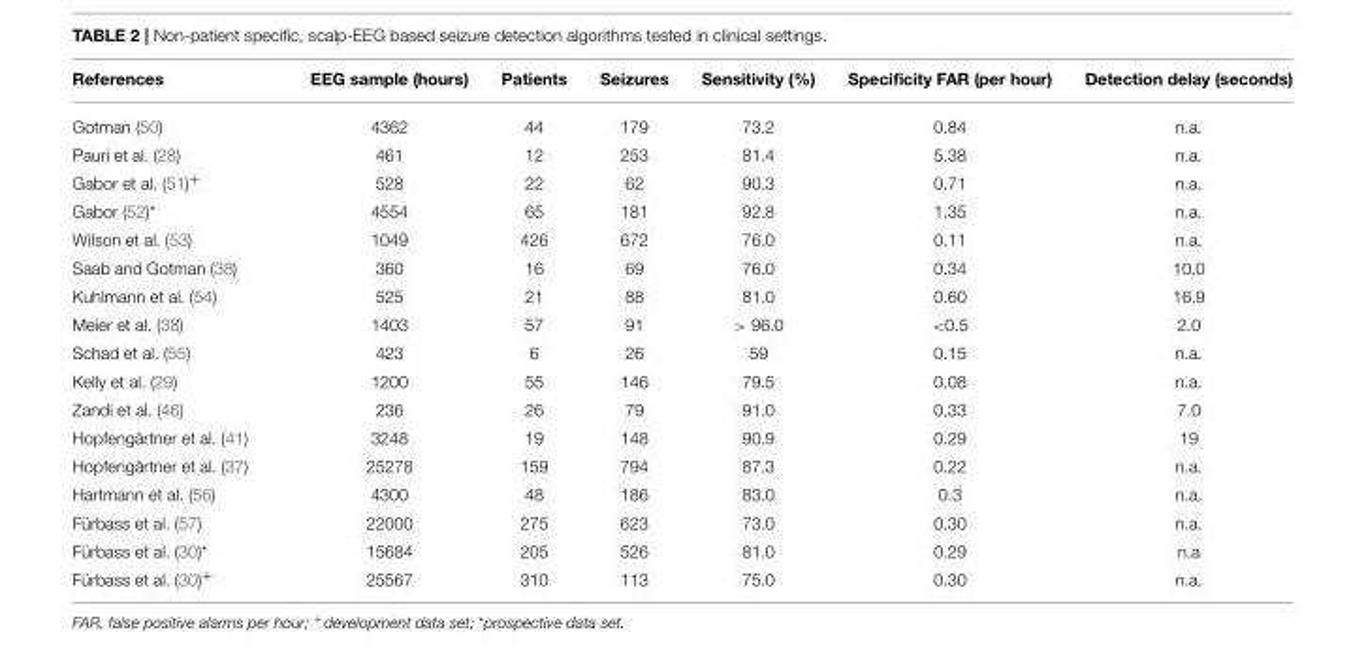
<table><thead><tr><td>References</td><td>EEG sample (hours)</td><td>Patients</td><td>Seizures</td><td>Sensitivity (%)</td><td>Specificity FAR (per hour)</td><td>Detection delay (seconds)</td></tr></thead><tbody><tr><td>Gotman (50)</td><td>4362</td><td>44</td><td>179</td><td>73.2</td><td>0.84</td><td>n.a.</td></tr><tr><td>Pauri et al. (28)</td><td>461</td><td>12</td><td>253</td><td>81.4</td><td>5.38</td><td>n.a.</td></tr><tr><td>Gabor et al. (51)<sup>+</sup></td><td>528</td><td>22</td><td>62</td><td>90.3</td><td>0.71</td><td>n.a.</td></tr><tr><td>Gabor (52)*</td><td>4554</td><td>65</td><td>181</td><td>92.8</td><td>1.35</td><td>n.a.</td></tr><tr><td>Wilson et al. (53)</td><td>1049</td><td>426</td><td>672</td><td>76.0</td><td>0.11</td><td>n.a.</td></tr><tr><td>Saab and Gotman (38)</td><td>360</td><td>16</td><td>69</td><td>76.0</td><td>0.34</td><td>10.0</td></tr><tr><td>Kuhlmann et al. (54)</td><td>525</td><td>21</td><td>88</td><td>81.0</td><td>0.60</td><td>16.9</td></tr><tr><td>Meier et al. (38)</td><td>1403</td><td>57</td><td>91</td><td>&gt; 96.0</td><td>&lt;0.5</td><td>2.0</td></tr><tr><td>Schad et al. (55)</td><td>423</td><td>6</td><td>26</td><td>59</td><td>0.15</td><td>n.a.</td></tr><tr><td>Kelly et al. (29)</td><td>1200</td><td>55</td><td>146</td><td>79.5</td><td>0.08</td><td>n.a.</td></tr><tr><td>Zandi et al. (46)</td><td>236</td><td>26</td><td>79</td><td>91.0</td><td>0.33</td><td>7.0</td></tr><tr><td>Hopfengärtner et al. (41)</td><td>3248</td><td>19</td><td>148</td><td>90.9</td><td>0.29</td><td>19</td></tr><tr><td>Hopfengärtner et al. (37)</td><td>25278</td><td>159</td><td>794</td><td>87.3</td><td>0.22</td><td>n.a.</td></tr><tr><td>Hartmann et al. (56)</td><td>4300</td><td>48</td><td>186</td><td>83.0</td><td>0.3</td><td>n.a.</td></tr><tr><td>Fürbass et al. (57)</td><td>22000</td><td>275</td><td>623</td><td>73.0</td><td>0.30</td><td>n.a.</td></tr><tr><td>Fürbass et al. (30)*</td><td>15684</td><td>205</td><td>526</td><td>81.0</td><td>0.29</td><td>n.a</td></tr><tr><td>Fürbass et al. (30)<sup>+</sup></td><td>25567</td><td>310</td><td>113</td><td>75.0</td><td>0.30</td><td>n.a.</td></tr></tbody></table>